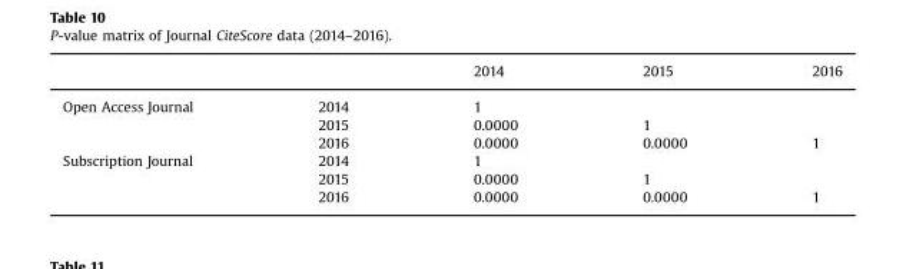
<table><thead><tr><td></td><td></td><td>2014</td><td>2015</td><td>2016</td></tr></thead><tbody><tr><td rowspan="3">Open Access Journal</td><td>2014</td><td>1</td><td></td><td></td></tr><tr><td>2015</td><td>0.0000</td><td>1</td><td></td></tr><tr><td>2016</td><td>0.0000</td><td>0.0000</td><td>1</td></tr><tr><td rowspan="3">Subscription Journal</td><td>2014</td><td>1</td><td></td><td></td></tr><tr><td>2015</td><td>0.0000</td><td>1</td><td></td></tr><tr><td>2016</td><td>0.0000</td><td>0.0000</td><td>1</td></tr></tbody></table>